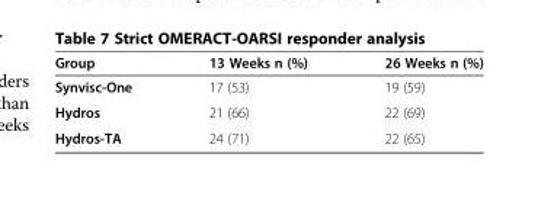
<table><thead><tr><td>Group</td><td>13 Weeks n (%)</td><td>26 Weeks n (%)</td></tr></thead><tbody><tr><td>Synvisc-One</td><td>17 (53)</td><td>19 (59)</td></tr><tr><td>Hydros</td><td>21 (66)</td><td>22 (69)</td></tr><tr><td>Hydros-TA</td><td>24 (71)</td><td>22 (65)</td></tr></tbody></table>